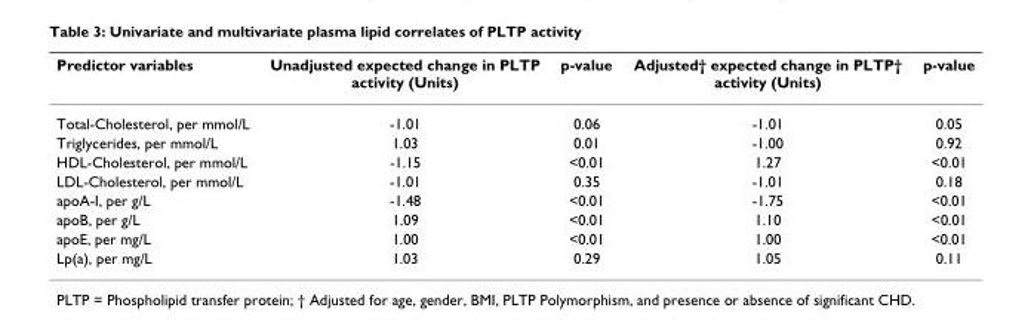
<table><thead><tr><td>Predictor variables</td><td>Unadjusted expected change in PLTP activity (Units)</td><td>p-value</td><td>Adjusted† expected change in PLTP† activity (Units)</td><td>p-value</td></tr></thead><tbody><tr><td>Total-Cholesterol, per mmol/L</td><td>-1.01</td><td>0.06</td><td>-1.01</td><td>0.05</td></tr><tr><td>Triglycerides, per mmol/L</td><td>1.03</td><td>0.01</td><td>-1.00</td><td>0.92</td></tr><tr><td>HDL-Cholesterol, per mmol/L</td><td>-1.15</td><td>&lt;0.01</td><td>1.27</td><td>&lt;0.01</td></tr><tr><td>LDL-Cholesterol, per mmol/L</td><td>-1.01</td><td>0.35</td><td>-1.01</td><td>0.18</td></tr><tr><td>apoA-I, per g/L</td><td>-1.48</td><td>&lt;0.01</td><td>-1.75</td><td>&lt;0.01</td></tr><tr><td>apoB, per g/L</td><td>1.09</td><td>&lt;0.01</td><td>1.10</td><td>&lt;0.01</td></tr><tr><td>apoE, per mg/L</td><td>1.00</td><td>&lt;0.01</td><td>1.00</td><td>&lt;0.01</td></tr><tr><td>Lp(a), per mg/L</td><td>1.03</td><td>0.29</td><td>1.05</td><td>0.11</td></tr></tbody></table>